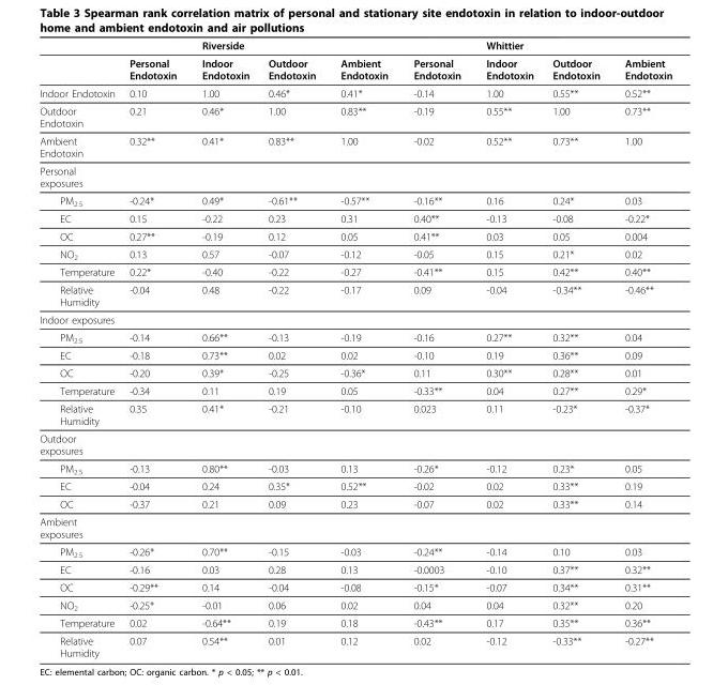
<table><thead><tr><td rowspan="2"></td><td rowspan="2">Personal Endotoxin</td><td colspan="3">Riverside</td><td rowspan="2">Personal Endotoxin</td><td colspan="3">Whittier</td></tr><tr><td>Indoor Endotoxin</td><td>Outdoor Endotoxin</td><td>Ambient Endotoxin</td><td>Indoor Endotoxin</td><td>Outdoor Endotoxin</td><td>Ambient Endotoxin</td></tr></thead><tbody><tr><td>Indoor Endotoxin</td><td>0.10</td><td>1.00</td><td>0.46*</td><td>0.41*</td><td>-0.14</td><td>1.00</td><td>0.55**</td><td>0.52**</td></tr><tr><td>Outdoor Endotoxin</td><td>0.21</td><td>0.46*</td><td>1.00</td><td>0.83**</td><td>-0.19</td><td>0.55**</td><td>1.00</td><td>0.73**</td></tr><tr><td>Ambient Endotoxin</td><td>0.32**</td><td>0.41*</td><td>0.83**</td><td>1.00</td><td>-0.02</td><td>0.52**</td><td>0.73**</td><td>1.00</td></tr><tr><td colspan="9">Personal exposures</td></tr><tr><td>PM<sub>2.5</sub></td><td>-0.24*</td><td>0.49*</td><td>-0.61**</td><td>-0.57**</td><td>-0.16**</td><td>0.16</td><td>0.24*</td><td>0.03</td></tr><tr><td>EC</td><td>0.15</td><td>-0.22</td><td>0.23</td><td>0.31</td><td>0.40**</td><td>-0.13</td><td>-0.08</td><td>-0.22*</td></tr><tr><td>OC</td><td>0.27**</td><td>-0.19</td><td>0.12</td><td>0.05</td><td>0.41**</td><td>0.03</td><td>0.05</td><td>0.004</td></tr><tr><td>NO<sub>2</sub></td><td>0.13</td><td>0.57</td><td>-0.07</td><td>-0.12</td><td>-0.05</td><td>0.15</td><td>0.21*</td><td>0.02</td></tr><tr><td>Temperature</td><td>0.22*</td><td>-0.40</td><td>-0.22</td><td>-0.27</td><td>-0.41**</td><td>0.15</td><td>0.42**</td><td>0.40**</td></tr><tr><td>Relative Humidity</td><td>-0.04</td><td>0.48</td><td>-0.22</td><td>-0.17</td><td>0.09</td><td>-0.04</td><td>-0.34**</td><td>-0.46**</td></tr><tr><td colspan="9">Indoor exposures</td></tr><tr><td>PM<sub>2.5</sub></td><td>-0.14</td><td>0.66**</td><td>-0.13</td><td>-0.19</td><td>-0.16</td><td>0.27**</td><td>0.32**</td><td>0.04</td></tr><tr><td>EC</td><td>-0.18</td><td>0.73**</td><td>0.02</td><td>0.02</td><td>-0.10</td><td>0.19</td><td>0.36**</td><td>0.09</td></tr><tr><td>OC</td><td>-0.20</td><td>0.39*</td><td>-0.25</td><td>-0.36*</td><td>0.11</td><td>0.30**</td><td>0.28**</td><td>0.01</td></tr><tr><td>Temperature</td><td>-0.34</td><td>0.11</td><td>0.19</td><td>0.05</td><td>-0.33**</td><td>0.04</td><td>0.27**</td><td>0.29*</td></tr><tr><td>Relative Humidity</td><td>0.35</td><td>0.41*</td><td>-0.21</td><td>-0.10</td><td>0.023</td><td>0.11</td><td>-0.23*</td><td>-0.37*</td></tr><tr><td colspan="9">Outdoor exposures</td></tr><tr><td>PM<sub>2.5</sub></td><td>-0.13</td><td>0.80**</td><td>-0.03</td><td>0.13</td><td>-0.26*</td><td>-0.12</td><td>0.23*</td><td>0.05</td></tr><tr><td>EC</td><td>-0.04</td><td>0.24</td><td>0.35*</td><td>0.52**</td><td>-0.02</td><td>0.02</td><td>0.33**</td><td>0.19</td></tr><tr><td>OC</td><td>-0.37</td><td>0.21</td><td>0.09</td><td>0.23</td><td>-0.07</td><td>0.02</td><td>0.33**</td><td>0.14</td></tr><tr><td colspan="9">Ambient exposures</td></tr><tr><td>PM<sub>2.5</sub></td><td>-0.26*</td><td>0.70**</td><td>-0.15</td><td>-0.03</td><td>-0.24**</td><td>-0.14</td><td>0.10</td><td>0.03</td></tr><tr><td>EC</td><td>-0.16</td><td>0.03</td><td>0.28</td><td>0.13</td><td>-0.0003</td><td>-0.10</td><td>0.37**</td><td>0.32**</td></tr><tr><td>OC</td><td>-0.29**</td><td>0.14</td><td>-0.04</td><td>-0.08</td><td>-0.15*</td><td>-0.07</td><td>0.34**</td><td>0.31**</td></tr><tr><td>NO<sub>2</sub></td><td>-0.25*</td><td>-0.01</td><td>0.06</td><td>0.02</td><td>0.04</td><td>0.04</td><td>0.32**</td><td>0.20</td></tr><tr><td>Temperature</td><td>0.02</td><td>-0.64**</td><td>0.19</td><td>0.18</td><td>-0.43**</td><td>0.17</td><td>0.35**</td><td>0.36**</td></tr><tr><td>Relative Humidity</td><td>0.07</td><td>0.54**</td><td>0.01</td><td>0.12</td><td>0.02</td><td>-0.12</td><td>-0.33**</td><td>-0.27**</td></tr></tbody></table>